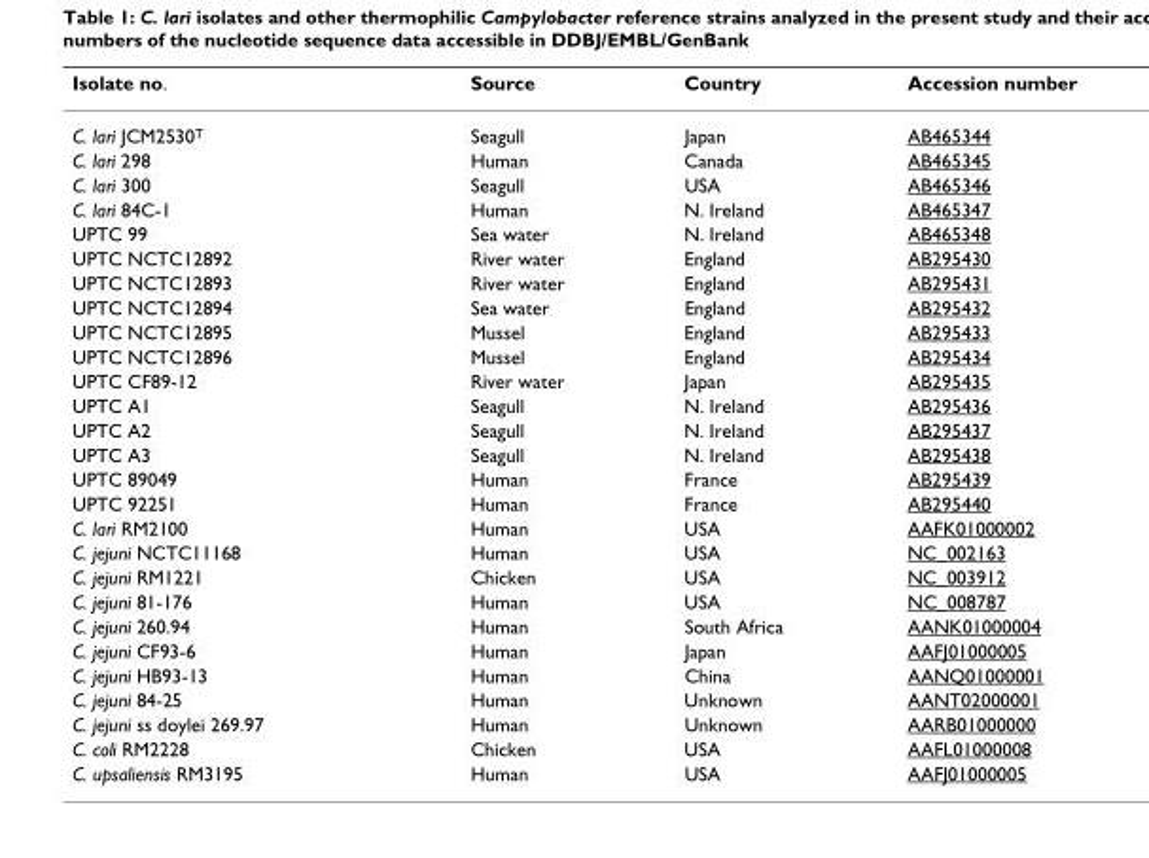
<table><thead><tr><td>Isolate no.</td><td>Source</td><td>Country</td><td>Accession number</td></tr></thead><tbody><tr><td>C. lari JCM2530<sup>T</sup></td><td>Seagull</td><td>Japan</td><td>AB465344</td></tr><tr><td>C. lari 298</td><td>Human</td><td>Canada</td><td>AB465345</td></tr><tr><td>C. lari 300</td><td>Seagull</td><td>USA</td><td>AB465346</td></tr><tr><td>C. lari 84C-1</td><td>Human</td><td>N. Ireland</td><td>AB465347</td></tr><tr><td>UPTC 99</td><td>Sea water</td><td>N. Ireland</td><td>AB465348</td></tr><tr><td>UPTC NCTC12892</td><td>River water</td><td>England</td><td>AB295430</td></tr><tr><td>UPTC NCTC12893</td><td>River water</td><td>England</td><td>AB295431</td></tr><tr><td>UPTC NCTC12894</td><td>Sea water</td><td>England</td><td>AB295432</td></tr><tr><td>UPTC NCTC12895</td><td>Mussel</td><td>England</td><td>AB295433</td></tr><tr><td>UPTC NCTC12896</td><td>Mussel</td><td>England</td><td>AB295434</td></tr><tr><td>UPTC CF89-12</td><td>River water</td><td>Japan</td><td>AB295435</td></tr><tr><td>UPTC A1</td><td>Seagull</td><td>N. Ireland</td><td>AB295436</td></tr><tr><td>UPTC A2</td><td>Seagull</td><td>N. Ireland</td><td>AB295437</td></tr><tr><td>UPTC A3</td><td>Seagull</td><td>N. Ireland</td><td>AB295438</td></tr><tr><td>UPTC 89049</td><td>Human</td><td>France</td><td>AB295439</td></tr><tr><td>UPTC 92251</td><td>Human</td><td>France</td><td>AB295440</td></tr><tr><td>C. lari RM2100</td><td>Human</td><td>USA</td><td>AAFK01000002</td></tr><tr><td>C. jejuni NCTC11168</td><td>Human</td><td>USA</td><td>NC_002163</td></tr><tr><td>C. jejuni RM1221</td><td>Chicken</td><td>USA</td><td>NC_003912</td></tr><tr><td>C. jejuni 81-176</td><td>Human</td><td>USA</td><td>NC_008787</td></tr><tr><td>C. jejuni 260.94</td><td>Human</td><td>South Africa</td><td>AANK01000004</td></tr><tr><td>C. jejuni CF93-6</td><td>Human</td><td>Japan</td><td>AAFJ01000005</td></tr><tr><td>C. jejuni HB93-13</td><td>Human</td><td>China</td><td>AANQ01000001</td></tr><tr><td>C. jejuni 84-25</td><td>Human</td><td>Unknown</td><td>AANT02000001</td></tr><tr><td>C. jejuni ss doylei 269.97</td><td>Human</td><td>Unknown</td><td>AARB01000000</td></tr><tr><td>C. coli RM2228</td><td>Chicken</td><td>USA</td><td>AAFL01000008</td></tr><tr><td>C. upsaliensis RM3195</td><td>Human</td><td>USA</td><td>AAFJ01000005</td></tr></tbody></table>